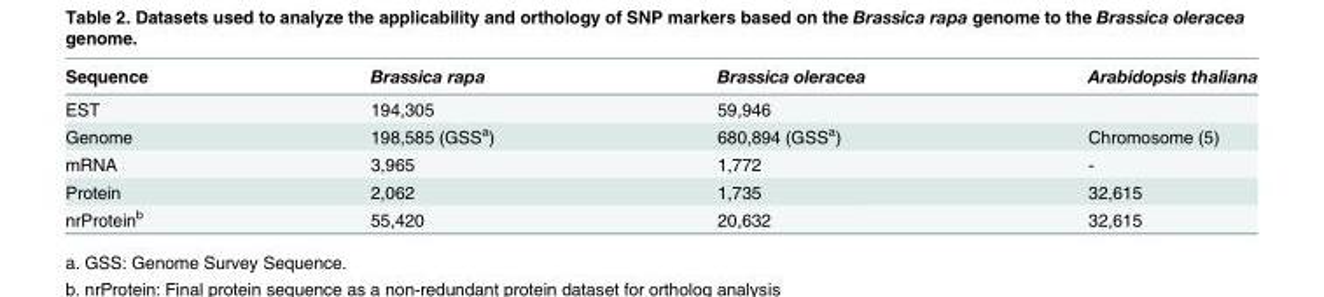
<table><thead><tr><td>Sequence</td><td>Brassica rapa</td><td>Brassica oleracea</td><td>Arabidopsis thaliana</td></tr></thead><tbody><tr><td>EST</td><td>194,305</td><td>59,946</td><td></td></tr><tr><td>Genome</td><td>198,585 (GSS<sup>a</sup>)</td><td>680,894 (GSS<sup>a</sup>)</td><td>Chromosome (5)</td></tr><tr><td>mRNA</td><td>3,965</td><td>1,772</td><td>-</td></tr><tr><td>Protein</td><td>2,062</td><td>1,735</td><td>32,615</td></tr><tr><td>nrProtein<sup>b</sup></td><td>55,420</td><td>20,632</td><td>32,615</td></tr></tbody></table>